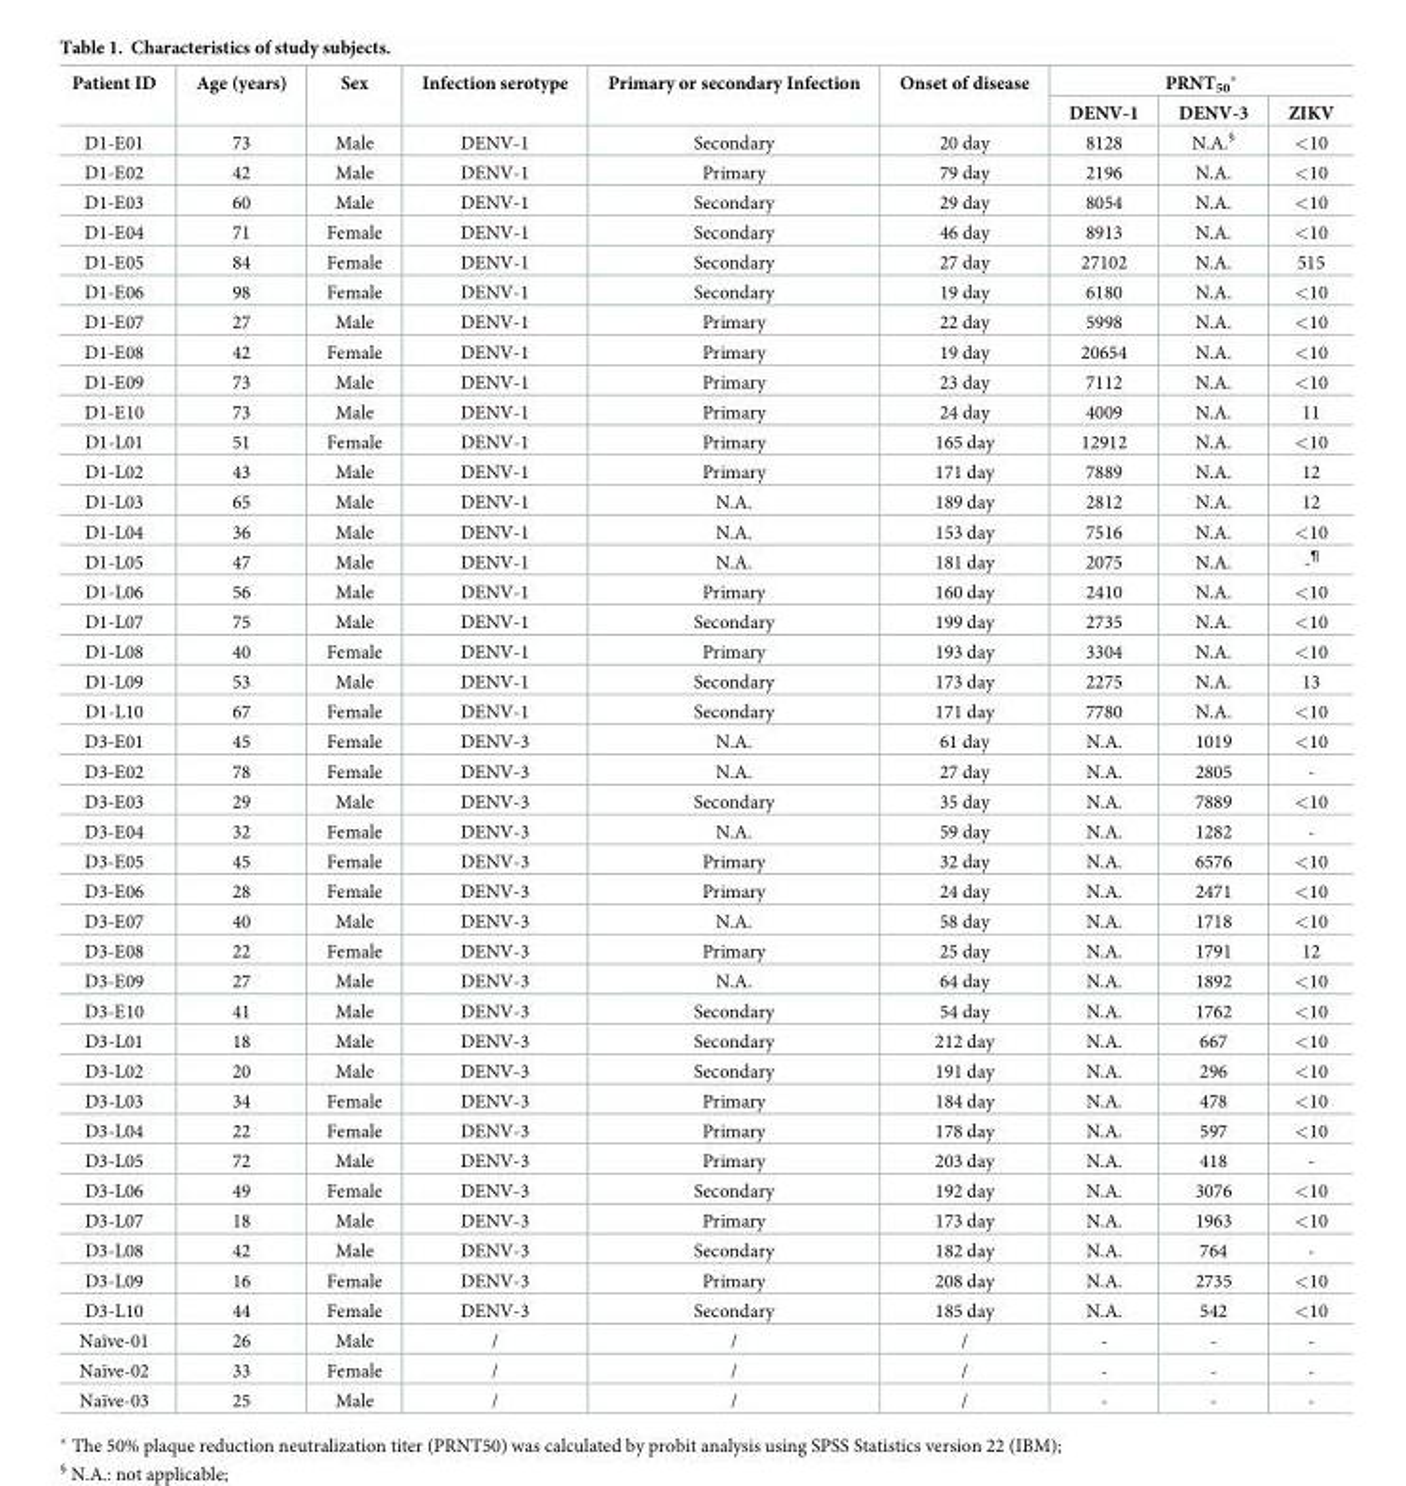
<table><thead><tr><td rowspan="2">Patient ID</td><td rowspan="2">Age (years)</td><td rowspan="2">Sex</td><td rowspan="2">Infection serotype</td><td rowspan="2">Primary or secondary Infection</td><td rowspan="2">Onset of disease</td><td colspan="3">PRNT<sub>50</sub>*</td></tr><tr><td>DENV-1</td><td>DENV-3</td><td>ZIKV</td></tr></thead><tbody><tr><td>D1-E01</td><td>73</td><td>Male</td><td>DENV-1</td><td>Secondary</td><td>20 day</td><td>8128</td><td>N.A.<sup>§</sup></td><td>&lt;10</td></tr><tr><td>D1-E02</td><td>42</td><td>Male</td><td>DENV-1</td><td>Primary</td><td>79 day</td><td>2196</td><td>N.A.</td><td>&lt;10</td></tr><tr><td>D1-E03</td><td>60</td><td>Male</td><td>DENV-1</td><td>Secondary</td><td>29 day</td><td>8054</td><td>N.A.</td><td>&lt;10</td></tr><tr><td>D1-E04</td><td>71</td><td>Female</td><td>DENV-1</td><td>Secondary</td><td>46 day</td><td>8913</td><td>N.A.</td><td>&lt;10</td></tr><tr><td>D1-E05</td><td>84</td><td>Female</td><td>DENV-1</td><td>Secondary</td><td>27 day</td><td>27102</td><td>N.A.</td><td>515</td></tr><tr><td>D1-E06</td><td>98</td><td>Female</td><td>DENV-1</td><td>Secondary</td><td>19 day</td><td>6180</td><td>N.A.</td><td>&lt;10</td></tr><tr><td>D1-E07</td><td>27</td><td>Male</td><td>DENV-1</td><td>Primary</td><td>22 day</td><td>5998</td><td>N.A.</td><td>&lt;10</td></tr><tr><td>D1-E08</td><td>42</td><td>Female</td><td>DENV-1</td><td>Primary</td><td>19 day</td><td>20654</td><td>N.A.</td><td>&lt;10</td></tr><tr><td>D1-E09</td><td>73</td><td>Male</td><td>DENV-1</td><td>Primary</td><td>23 day</td><td>7112</td><td>N.A.</td><td>&lt;10</td></tr><tr><td>D1-E10</td><td>73</td><td>Male</td><td>DENV-1</td><td>Primary</td><td>24 day</td><td>4009</td><td>N.A.</td><td>11</td></tr><tr><td>D1-L01</td><td>51</td><td>Female</td><td>DENV-1</td><td>Primary</td><td>165 day</td><td>12912</td><td>N.A.</td><td>&lt;10</td></tr><tr><td>D1-L02</td><td>43</td><td>Male</td><td>DENV-1</td><td>Primary</td><td>171 day</td><td>7889</td><td>N.A.</td><td>12</td></tr><tr><td>D1-L03</td><td>65</td><td>Male</td><td>DENV-1</td><td>N.A.</td><td>189 day</td><td>2812</td><td>N.A.</td><td>12</td></tr><tr><td>D1-L04</td><td>36</td><td>Male</td><td>DENV-1</td><td>N.A.</td><td>153 day</td><td>7516</td><td>N.A.</td><td>&lt;10</td></tr><tr><td>D1-L05</td><td>47</td><td>Male</td><td>DENV-1</td><td>N.A.</td><td>181 day</td><td>2075</td><td>N.A.</td><td>-<sup>¶</sup></td></tr><tr><td>D1-L06</td><td>56</td><td>Male</td><td>DENV-1</td><td>Primary</td><td>160 day</td><td>2410</td><td>N.A.</td><td>&lt;10</td></tr><tr><td>D1-L07</td><td>75</td><td>Male</td><td>DENV-1</td><td>Secondary</td><td>199 day</td><td>2735</td><td>N.A.</td><td>&lt;10</td></tr><tr><td>D1-L08</td><td>40</td><td>Female</td><td>DENV-1</td><td>Primary</td><td>193 day</td><td>3304</td><td>N.A.</td><td>&lt;10</td></tr><tr><td>D1-L09</td><td>53</td><td>Male</td><td>DENV-1</td><td>Secondary</td><td>173 day</td><td>2275</td><td>N.A.</td><td>13</td></tr><tr><td>D1-L10</td><td>67</td><td>Female</td><td>DENV-1</td><td>Secondary</td><td>171 day</td><td>7780</td><td>N.A.</td><td>&lt;10</td></tr><tr><td>D3-E01</td><td>45</td><td>Female</td><td>DENV-3</td><td>N.A.</td><td>61 day</td><td>N.A.</td><td>1019</td><td>&lt;10</td></tr><tr><td>D3-E02</td><td>78</td><td>Female</td><td>DENV-3</td><td>N.A.</td><td>27 day</td><td>N.A.</td><td>2805</td><td>-</td></tr><tr><td>D3-E03</td><td>29</td><td>Male</td><td>DENV-3</td><td>Secondary</td><td>35 day</td><td>N.A.</td><td>7889</td><td>&lt;10</td></tr><tr><td>D3-E04</td><td>32</td><td>Female</td><td>DENV-3</td><td>N.A.</td><td>59 day</td><td>N.A.</td><td>1282</td><td>-</td></tr><tr><td>D3-E05</td><td>45</td><td>Female</td><td>DENV-3</td><td>Primary</td><td>32 day</td><td>N.A.</td><td>6576</td><td>&lt;10</td></tr><tr><td>D3-E06</td><td>28</td><td>Female</td><td>DENV-3</td><td>Primary</td><td>24 day</td><td>N.A.</td><td>2471</td><td>&lt;10</td></tr><tr><td>D3-E07</td><td>40</td><td>Male</td><td>DENV-3</td><td>N.A.</td><td>58 day</td><td>N.A.</td><td>1718</td><td>&lt;10</td></tr><tr><td>D3-E08</td><td>22</td><td>Female</td><td>DENV-3</td><td>Primary</td><td>25 day</td><td>N.A.</td><td>1791</td><td>12</td></tr><tr><td>D3-E09</td><td>27</td><td>Male</td><td>DENV-3</td><td>N.A.</td><td>64 day</td><td>N.A.</td><td>1892</td><td>&lt;10</td></tr><tr><td>D3-E10</td><td>41</td><td>Male</td><td>DENV-3</td><td>Secondary</td><td>54 day</td><td>N.A.</td><td>1762</td><td>&lt;10</td></tr><tr><td>D3-L01</td><td>18</td><td>Male</td><td>DENV-3</td><td>Secondary</td><td>212 day</td><td>N.A.</td><td>667</td><td>&lt;10</td></tr><tr><td>D3-L02</td><td>20</td><td>Male</td><td>DENV-3</td><td>Secondary</td><td>191 day</td><td>N.A.</td><td>296</td><td>&lt;10</td></tr><tr><td>D3-L03</td><td>34</td><td>Female</td><td>DENV-3</td><td>Primary</td><td>184 day</td><td>N.A.</td><td>478</td><td>&lt;10</td></tr><tr><td>D3-L04</td><td>22</td><td>Female</td><td>DENV-3</td><td>Primary</td><td>178 day</td><td>N.A.</td><td>597</td><td>&lt;10</td></tr><tr><td>D3-L05</td><td>72</td><td>Male</td><td>DENV-3</td><td>Primary</td><td>203 day</td><td>N.A.</td><td>418</td><td>-</td></tr><tr><td>D3-L06</td><td>49</td><td>Female</td><td>DENV-3</td><td>Secondary</td><td>192 day</td><td>N.A.</td><td>3076</td><td>&lt;10</td></tr><tr><td>D3-L07</td><td>18</td><td>Male</td><td>DENV-3</td><td>Primary</td><td>173 day</td><td>N.A.</td><td>1963</td><td>&lt;10</td></tr><tr><td>D3-L08</td><td>42</td><td>Male</td><td>DENV-3</td><td>Secondary</td><td>182 day</td><td>N.A.</td><td>764</td><td>-</td></tr><tr><td>D3-L09</td><td>16</td><td>Female</td><td>DENV-3</td><td>Primary</td><td>208 day</td><td>N.A.</td><td>2735</td><td>&lt;10</td></tr><tr><td>D3-L10</td><td>44</td><td>Female</td><td>DENV-3</td><td>Secondary</td><td>185 day</td><td>N.A.</td><td>542</td><td>&lt;10</td></tr><tr><td>Naïve-01</td><td>26</td><td>Male</td><td>/</td><td>/</td><td>/</td><td>-</td><td>-</td><td>-</td></tr><tr><td>Naïve-02</td><td>33</td><td>Female</td><td>/</td><td>/</td><td>/</td><td>-</td><td>-</td><td>-</td></tr><tr><td>Naïve-03</td><td>25</td><td>Male</td><td>/</td><td>/</td><td>/</td><td>-</td><td>-</td><td>-</td></tr></tbody></table>